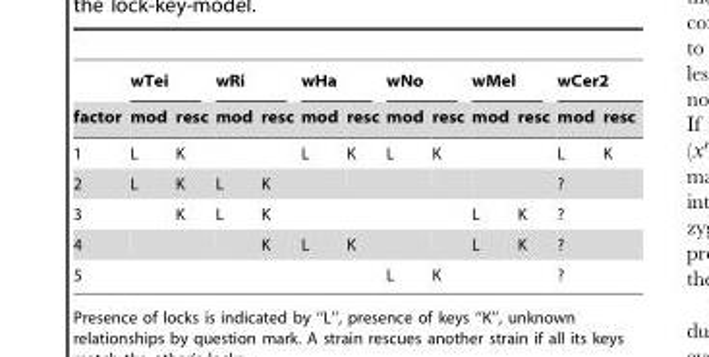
<table><thead><tr><td rowspan="2">factor</td><td colspan="2">wTei</td><td colspan="2">wRi</td><td colspan="2">wHa</td><td colspan="2">wNo</td><td colspan="2">wMel</td><td colspan="2">wCer2</td></tr><tr><td>mod</td><td>resc</td><td>mod</td><td>resc</td><td>mod</td><td>resc</td><td>mod</td><td>resc</td><td>mod</td><td>resc</td><td>mod</td><td>resc</td></tr></thead><tbody><tr><td>1</td><td>L</td><td>K</td><td></td><td></td><td>L</td><td>K</td><td>L</td><td>K</td><td></td><td></td><td>L</td><td>K</td></tr><tr><td>2</td><td>L</td><td>K</td><td>L</td><td>K</td><td></td><td></td><td></td><td></td><td></td><td></td><td colspan="2">?</td></tr><tr><td>3</td><td></td><td>K</td><td>L</td><td>K</td><td></td><td></td><td></td><td></td><td>L</td><td>K</td><td colspan="2">?</td></tr><tr><td>4</td><td></td><td></td><td></td><td>K</td><td>L</td><td>K</td><td></td><td></td><td>L</td><td>K</td><td colspan="2">?</td></tr><tr><td>5</td><td></td><td></td><td></td><td></td><td></td><td></td><td>L</td><td>K</td><td></td><td></td><td colspan="2">?</td></tr></tbody></table>